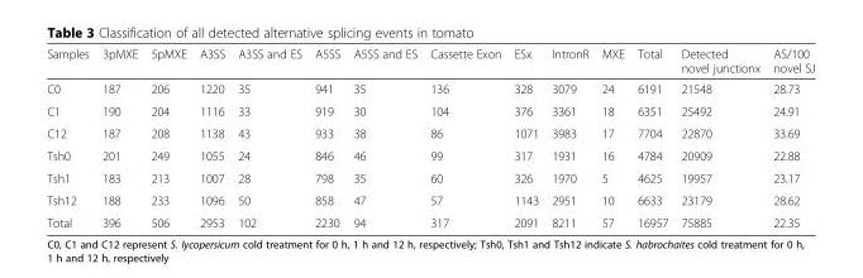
<table><thead><tr><td>Samples</td><td>3pMXE</td><td>5pMXE</td><td>A3SS</td><td>A3SS and ES</td><td>A5SS</td><td>A5SS and ES</td><td>Cassette Exon</td><td>ESx</td><td>IntronR</td><td>MXE</td><td>Total</td><td>Detected novel junctionx</td><td>AS/100 novel SJ</td></tr></thead><tbody><tr><td>C0</td><td>187</td><td>206</td><td>1220</td><td>35</td><td>941</td><td>35</td><td>136</td><td>328</td><td>3079</td><td>24</td><td>6191</td><td>21548</td><td>28.73</td></tr><tr><td>C1</td><td>190</td><td>204</td><td>1116</td><td>33</td><td>919</td><td>30</td><td>104</td><td>376</td><td>3361</td><td>18</td><td>6351</td><td>25492</td><td>24.91</td></tr><tr><td>C12</td><td>187</td><td>208</td><td>1138</td><td>43</td><td>933</td><td>38</td><td>86</td><td>1071</td><td>3983</td><td>17</td><td>7704</td><td>22870</td><td>33.69</td></tr><tr><td>Tsh0</td><td>201</td><td>249</td><td>1055</td><td>24</td><td>846</td><td>46</td><td>99</td><td>317</td><td>1931</td><td>16</td><td>4784</td><td>20909</td><td>22.88</td></tr><tr><td>Tsh1</td><td>183</td><td>213</td><td>1007</td><td>28</td><td>798</td><td>35</td><td>60</td><td>326</td><td>1970</td><td>5</td><td>4625</td><td>19957</td><td>23.17</td></tr><tr><td>Tsh12</td><td>188</td><td>233</td><td>1096</td><td>50</td><td>858</td><td>47</td><td>57</td><td>1143</td><td>2951</td><td>10</td><td>6633</td><td>23179</td><td>28.62</td></tr><tr><td>Total</td><td>396</td><td>506</td><td>2953</td><td>102</td><td>2230</td><td>94</td><td>317</td><td>2091</td><td>8211</td><td>57</td><td>16957</td><td>75885</td><td>22.35</td></tr></tbody></table>